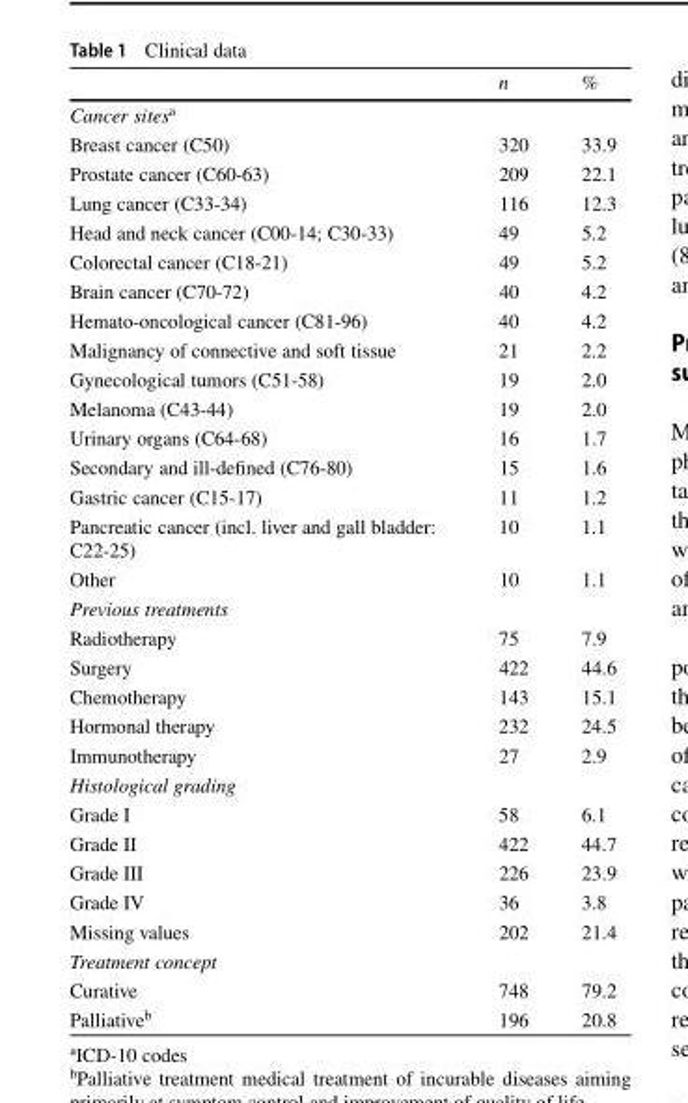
<table><thead><tr><td></td><td>n</td><td>%</td></tr></thead><tbody><tr><td colspan="3">Cancer sites<sup>a</sup></td></tr><tr><td>Breast cancer (C50)</td><td>320</td><td>33.9</td></tr><tr><td>Prostate cancer (C60-63)</td><td>209</td><td>22.1</td></tr><tr><td>Lung cancer (C33-34)</td><td>116</td><td>12.3</td></tr><tr><td>Head and neck cancer (C00-14; C30-33)</td><td>49</td><td>5.2</td></tr><tr><td>Colorectal cancer (C18-21)</td><td>49</td><td>5.2</td></tr><tr><td>Brain cancer (C70-72)</td><td>40</td><td>4.2</td></tr><tr><td>Hemato-oncological cancer (C81-96)</td><td>40</td><td>4.2</td></tr><tr><td>Malignancy of connective and soft tissue</td><td>21</td><td>2.2</td></tr><tr><td>Gynecological tumors (C51-58)</td><td>19</td><td>2.0</td></tr><tr><td>Melanoma (C43-44)</td><td>19</td><td>2.0</td></tr><tr><td>Urinary organs (C64-68)</td><td>16</td><td>1.7</td></tr><tr><td>Secondary and ill-defined (C76-80)</td><td>15</td><td>1.6</td></tr><tr><td>Gastric cancer (C15-17)</td><td>11</td><td>1.2</td></tr><tr><td>Pancreatic cancer (incl. liver and gall bladder: C22-25)</td><td>10</td><td>1.1</td></tr><tr><td>Other</td><td>10</td><td>1.1</td></tr><tr><td colspan="3">Previous treatments</td></tr><tr><td>Radiotherapy</td><td>75</td><td>7.9</td></tr><tr><td>Surgery</td><td>422</td><td>44.6</td></tr><tr><td>Chemotherapy</td><td>143</td><td>15.1</td></tr><tr><td>Hormonal therapy</td><td>232</td><td>24.5</td></tr><tr><td>Immunotherapy</td><td>27</td><td>2.9</td></tr><tr><td colspan="3">Histological grading</td></tr><tr><td>Grade I</td><td>58</td><td>6.1</td></tr><tr><td>Grade II</td><td>422</td><td>44.7</td></tr><tr><td>Grade III</td><td>226</td><td>23.9</td></tr><tr><td>Grade IV</td><td>36</td><td>3.8</td></tr><tr><td>Missing values</td><td>202</td><td>21.4</td></tr><tr><td colspan="3">Treatment concept</td></tr><tr><td>Curative</td><td>748</td><td>79.2</td></tr><tr><td>Palliative<sup>b</sup></td><td>196</td><td>20.8</td></tr></tbody></table>